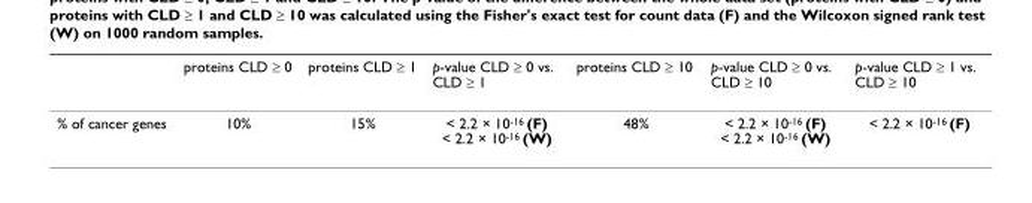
<table><thead><tr><td></td><td>proteins CLD ≥ 0</td><td>proteins CLD ≥ 1</td><td>p-value CLD ≥ 0 vs. CLD ≥ 1</td><td>proteins CLD ≥ 10</td><td>p-value CLD ≥ 0 vs. CLD ≥ 10</td><td>p-value CLD ≥ 1 vs. CLD ≥ 10</td></tr></thead><tbody><tr><td>% of cancer genes</td><td>10%</td><td>15%</td><td>&lt; 2.2 × 10<sup>-16</sup> (F) &lt; 2.2 × 10<sup>-16</sup> (W)</td><td>48%</td><td>&lt; 2.2 × 10<sup>-16</sup> (F) &lt; 2.2 × 10<sup>-16</sup> (W)</td><td>&lt; 2.2 × 10<sup>-16</sup> (F)</td></tr></tbody></table>